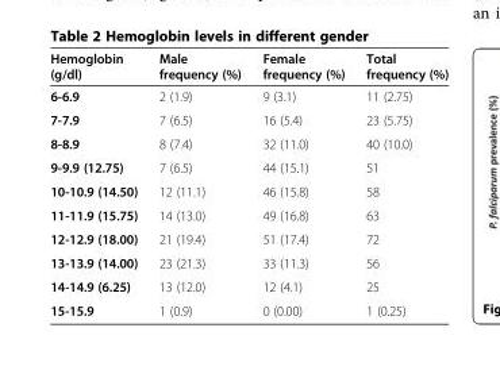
<table><thead><tr><td>Hemoglobin (g/dl)</td><td>Male frequency (%)</td><td>Female frequency (%)</td><td>Total frequency (%)</td></tr></thead><tbody><tr><td>6-6.9</td><td>2 (1.9)</td><td>9 (3.1)</td><td>11 (2.75)</td></tr><tr><td>7-7.9</td><td>7 (6.5)</td><td>16 (5.4)</td><td>23 (5.75)</td></tr><tr><td>8-8.9</td><td>8 (7.4)</td><td>32 (11.0)</td><td>40 (10.0)</td></tr><tr><td>9-9.9 (12.75)</td><td>7 (6.5)</td><td>44 (15.1)</td><td>51</td></tr><tr><td>10-10.9 (14.50)</td><td>12 (11.1)</td><td>46 (15.8)</td><td>58</td></tr><tr><td>11-11.9 (15.75)</td><td>14 (13.0)</td><td>49 (16.8)</td><td>63</td></tr><tr><td>12-12.9 (18.00)</td><td>21 (19.4)</td><td>51 (17.4)</td><td>72</td></tr><tr><td>13-13.9 (14.00)</td><td>23 (21.3)</td><td>33 (11.3)</td><td>56</td></tr><tr><td>14-14.9 (6.25)</td><td>13 (12.0)</td><td>12 (4.1)</td><td>25</td></tr><tr><td>15-15.9</td><td>1 (0.9)</td><td>0 (0.00)</td><td>1 (0.25)</td></tr></tbody></table>